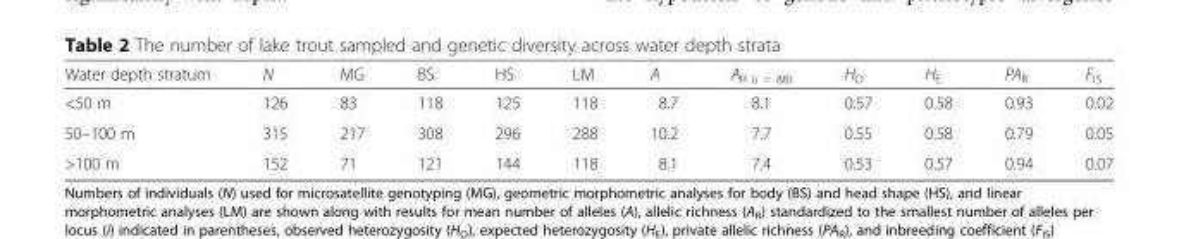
<table><thead><tr><td>Water depth stratum</td><td>N</td><td>MG</td><td>BS</td><td>HS</td><td>LM</td><td>A</td><td>A<sub>R (i = 88)</sub></td><td>H<sub>O</sub></td><td>H<sub>E</sub></td><td>PA<sub>R</sub></td><td>F<sub>IS</sub></td></tr></thead><tbody><tr><td>&lt;50 m</td><td>126</td><td>83</td><td>118</td><td>125</td><td>118</td><td>8.7</td><td>8.1</td><td>0.57</td><td>0.58</td><td>0.93</td><td>0.02</td></tr><tr><td>50–100 m</td><td>315</td><td>217</td><td>308</td><td>296</td><td>288</td><td>10.2</td><td>7.7</td><td>0.55</td><td>0.58</td><td>0.79</td><td>0.05</td></tr><tr><td>&gt;100 m</td><td>152</td><td>71</td><td>121</td><td>144</td><td>118</td><td>8.1</td><td>7.4</td><td>0.53</td><td>0.57</td><td>0.94</td><td>0.07</td></tr></tbody></table>